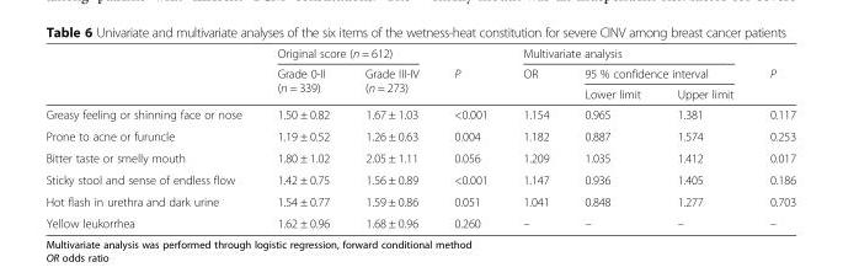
<table><thead><tr><td rowspan="3"></td><td colspan="2">Original score (n = 612)</td><td rowspan="3">P</td><td colspan="3">Multivariate analysis</td><td rowspan="3">P</td></tr><tr><td rowspan="2">Grade 0-II (n = 339)</td><td rowspan="2">Grade III-IV (n = 273)</td><td rowspan="2">OR</td><td colspan="2">95 % confidence interval</td></tr><tr><td>Lower limit</td><td>Upper limit</td></tr></thead><tbody><tr><td>Greasy feeling or shinning face or nose</td><td>1.50 ± 0.82</td><td>1.67 ± 1.03</td><td>&lt;0.001</td><td>1.154</td><td>0.965</td><td>1.381</td><td>0.117</td></tr><tr><td>Prone to acne or furuncle</td><td>1.19 ± 0.52</td><td>1.26 ± 0.63</td><td>0.004</td><td>1.182</td><td>0.887</td><td>1.574</td><td>0.253</td></tr><tr><td>Bitter taste or smelly mouth</td><td>1.80 ± 1.02</td><td>2.05 ± 1.11</td><td>0.056</td><td>1.209</td><td>1.035</td><td>1.412</td><td>0.017</td></tr><tr><td>Sticky stool and sense of endless flow</td><td>1.42 ± 0.75</td><td>1.56 ± 0.89</td><td>&lt;0.001</td><td>1.147</td><td>0.936</td><td>1.405</td><td>0.186</td></tr><tr><td>Hot flash in urethra and dark urine</td><td>1.54 ± 0.77</td><td>1.59 ± 0.86</td><td>0.051</td><td>1.041</td><td>0.848</td><td>1.277</td><td>0.703</td></tr><tr><td>Yellow leukorrhea</td><td>1.62 ± 0.96</td><td>1.68 ± 0.96</td><td>0.260</td><td>–</td><td>–</td><td>–</td><td>–</td></tr></tbody></table>